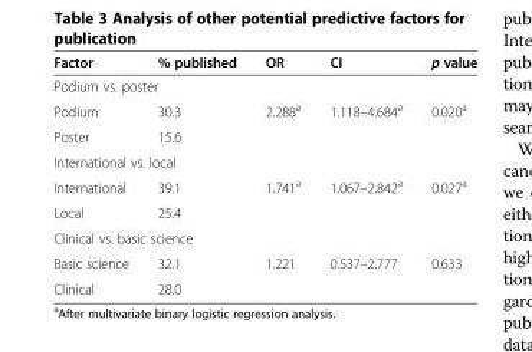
<table><thead><tr><td>Factor</td><td>% published</td><td>OR</td><td>CI</td><td>p value</td></tr></thead><tbody><tr><td colspan="5">Podium vs. poster</td></tr><tr><td>Podium</td><td>30.3</td><td rowspan="2">2.288<sup>a</sup></td><td rowspan="2">1.118–4.684<sup>a</sup></td><td rowspan="2">0.020<sup>a</sup></td></tr><tr><td>Poster</td><td>15.6</td></tr><tr><td colspan="5">International vs. local</td></tr><tr><td>International</td><td>39.1</td><td rowspan="2">1.741<sup>a</sup></td><td rowspan="2">1.067–2.842<sup>a</sup></td><td rowspan="2">0.027<sup>a</sup></td></tr><tr><td>Local</td><td>25.4</td></tr><tr><td colspan="5">Clinical vs. basic science</td></tr><tr><td>Basic science</td><td>32.1</td><td rowspan="2">1.221</td><td rowspan="2">0.537–2.777</td><td rowspan="2">0.633</td></tr><tr><td>Clinical</td><td>28.0</td></tr></tbody></table>